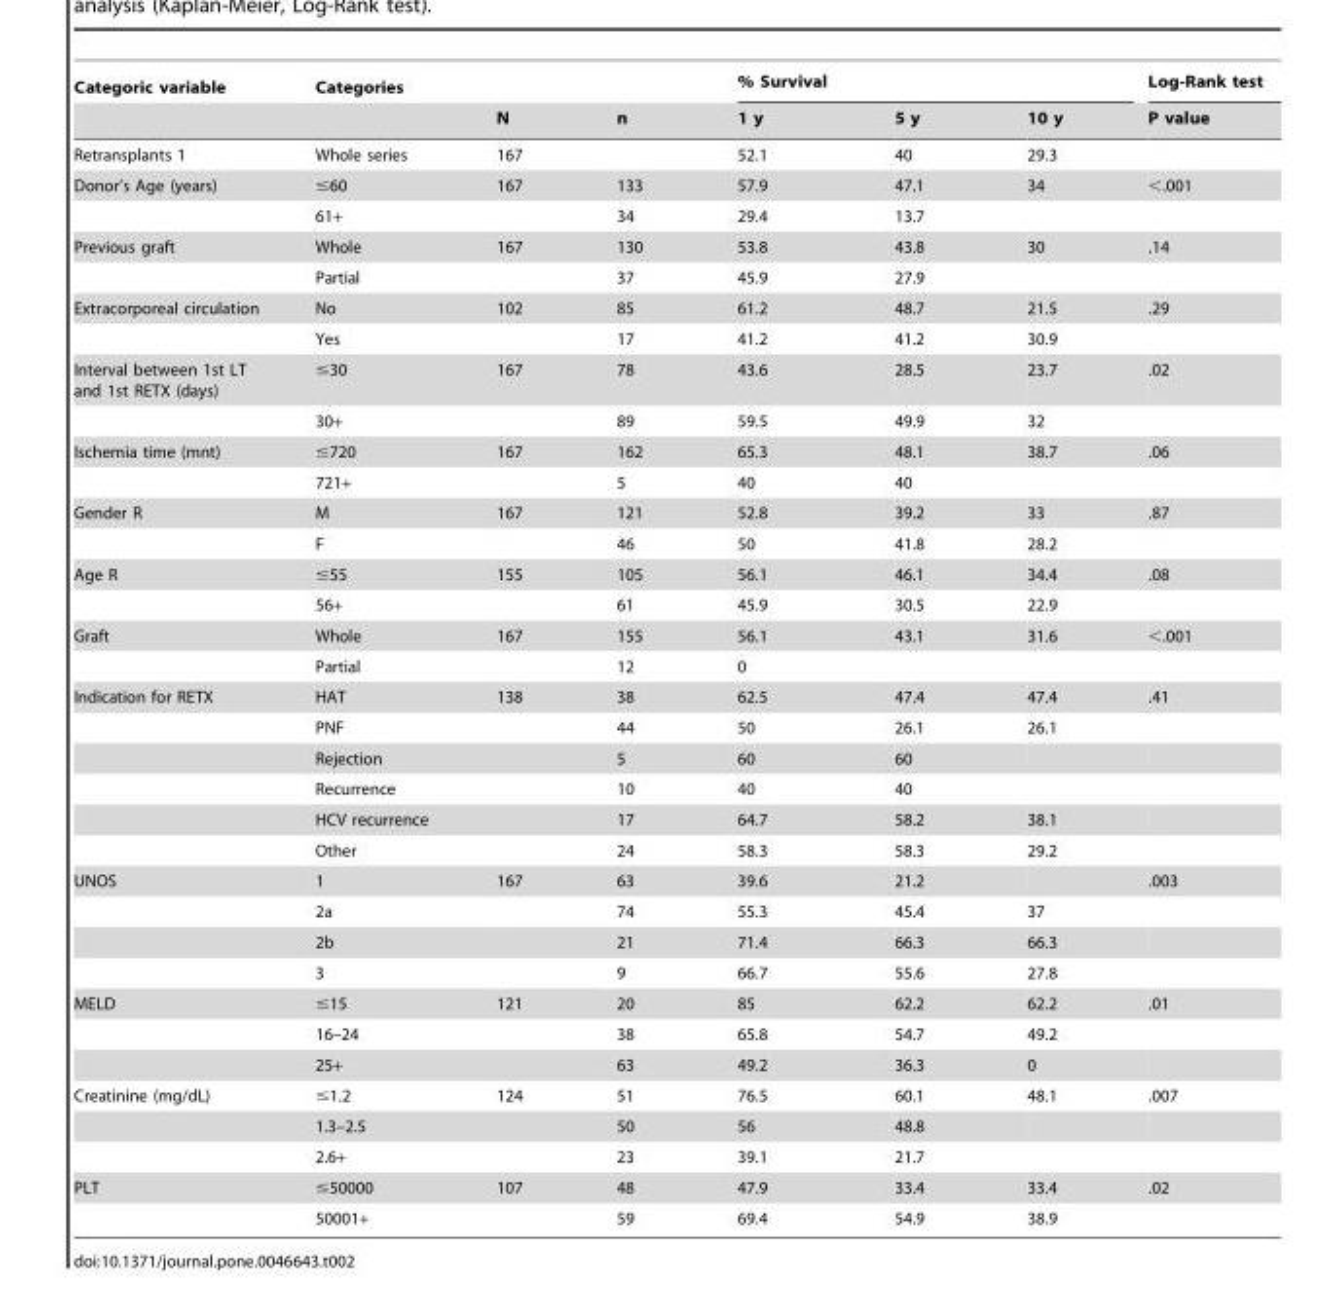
<table><thead><tr><td rowspan="2">Categoric variable</td><td rowspan="2">Categories</td><td rowspan="2">N</td><td rowspan="2">n</td><td colspan="3">% Survival</td><td rowspan="2">Log-Rank test P value</td></tr><tr><td>1 y</td><td>5 y</td><td>10 y</td></tr></thead><tbody><tr><td>Retransplants 1</td><td>Whole series</td><td>167</td><td></td><td>52.1</td><td>40</td><td>29.3</td><td></td></tr><tr><td rowspan="2">Donor’s Age (years)</td><td>≤60</td><td>167</td><td>133</td><td>57.9</td><td>47.1</td><td>34</td><td>&lt;.001</td></tr><tr><td>61+</td><td></td><td>34</td><td>29.4</td><td>13.7</td><td></td><td></td></tr><tr><td rowspan="2">Previous graft</td><td>Whole</td><td>167</td><td>130</td><td>53.8</td><td>43.8</td><td>30</td><td>.14</td></tr><tr><td>Partial</td><td></td><td>37</td><td>45.9</td><td>27.9</td><td></td><td></td></tr><tr><td rowspan="2">Extracorporeal circulation</td><td>No</td><td>102</td><td>85</td><td>61.2</td><td>48.7</td><td>21.5</td><td>.29</td></tr><tr><td>Yes</td><td></td><td>17</td><td>41.2</td><td>41.2</td><td>30.9</td><td></td></tr><tr><td rowspan="2">Interval between 1st LT and 1st RETX (days)</td><td>≤30</td><td>167</td><td>78</td><td>43.6</td><td>28.5</td><td>23.7</td><td>.02</td></tr><tr><td>30+</td><td></td><td>89</td><td>59.5</td><td>49.9</td><td>32</td><td></td></tr><tr><td rowspan="2">Ischemia time (mnt)</td><td>≤720</td><td>167</td><td>162</td><td>65.3</td><td>48.1</td><td>38.7</td><td>.06</td></tr><tr><td>721+</td><td></td><td>5</td><td>40</td><td>40</td><td></td><td></td></tr><tr><td rowspan="2">Gender R</td><td>M</td><td>167</td><td>121</td><td>52.8</td><td>39.2</td><td>33</td><td>.87</td></tr><tr><td>F</td><td></td><td>46</td><td>50</td><td>41.8</td><td>28.2</td><td></td></tr><tr><td rowspan="2">Age R</td><td>≤55</td><td>155</td><td>105</td><td>56.1</td><td>46.1</td><td>34.4</td><td>.08</td></tr><tr><td>56+</td><td></td><td>61</td><td>45.9</td><td>30.5</td><td>22.9</td><td></td></tr><tr><td rowspan="2">Graft</td><td>Whole</td><td>167</td><td>155</td><td>56.1</td><td>43.1</td><td>31.6</td><td>&lt;.001</td></tr><tr><td>Partial</td><td></td><td>12</td><td>0</td><td></td><td></td><td></td></tr><tr><td rowspan="6">Indication for RETX</td><td>HAT</td><td>138</td><td>38</td><td>62.5</td><td>47.4</td><td>47.4</td><td>.41</td></tr><tr><td>PNF</td><td></td><td>44</td><td>50</td><td>26.1</td><td>26.1</td><td></td></tr><tr><td>Rejection</td><td></td><td>5</td><td>60</td><td>60</td><td></td><td></td></tr><tr><td>Recurrence</td><td></td><td>10</td><td>40</td><td>40</td><td></td><td></td></tr><tr><td>HCV recurrence</td><td></td><td>17</td><td>64.7</td><td>58.2</td><td>38.1</td><td></td></tr><tr><td>Other</td><td></td><td>24</td><td>58.3</td><td>58.3</td><td>29.2</td><td></td></tr><tr><td rowspan="4">UNOS</td><td>1</td><td>167</td><td>63</td><td>39.6</td><td>21.2</td><td></td><td>.003</td></tr><tr><td>2a</td><td></td><td>74</td><td>55.3</td><td>45.4</td><td>37</td><td></td></tr><tr><td>2b</td><td></td><td>21</td><td>71.4</td><td>66.3</td><td>66.3</td><td></td></tr><tr><td>3</td><td></td><td>9</td><td>66.7</td><td>55.6</td><td>27.8</td><td></td></tr><tr><td rowspan="3">MELD</td><td>≤15</td><td>121</td><td>20</td><td>85</td><td>62.2</td><td>62.2</td><td>.01</td></tr><tr><td>16–24</td><td></td><td>38</td><td>65.8</td><td>54.7</td><td>49.2</td><td></td></tr><tr><td>25+</td><td></td><td>63</td><td>49.2</td><td>36.3</td><td>0</td><td></td></tr><tr><td rowspan="3">Creatinine (mg/dL)</td><td>≤1.2</td><td>124</td><td>51</td><td>76.5</td><td>60.1</td><td>48.1</td><td>.007</td></tr><tr><td>1.3–2.5</td><td></td><td>50</td><td>56</td><td>48.8</td><td></td><td></td></tr><tr><td>2.6+</td><td></td><td>23</td><td>39.1</td><td>21.7</td><td></td><td></td></tr><tr><td rowspan="2">PLT</td><td>≤50000</td><td>107</td><td>48</td><td>47.9</td><td>33.4</td><td>33.4</td><td>.02</td></tr><tr><td>50001+</td><td></td><td>59</td><td>69.4</td><td>54.9</td><td>38.9</td><td></td></tr></tbody></table>